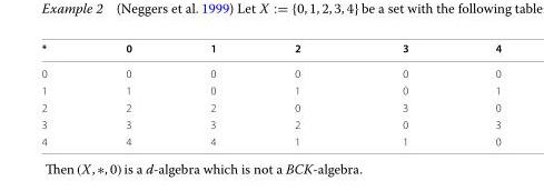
<table><thead><tr><td>*</td><td>0</td><td>1</td><td>2</td><td>3</td><td>4</td></tr></thead><tbody><tr><td>0</td><td>0</td><td>0</td><td>0</td><td>0</td><td>0</td></tr><tr><td>1</td><td>1</td><td>0</td><td>1</td><td>0</td><td>1</td></tr><tr><td>2</td><td>2</td><td>2</td><td>0</td><td>3</td><td>0</td></tr><tr><td>3</td><td>3</td><td>3</td><td>2</td><td>0</td><td>3</td></tr><tr><td>4</td><td>4</td><td>4</td><td>1</td><td>1</td><td>0</td></tr></tbody></table>